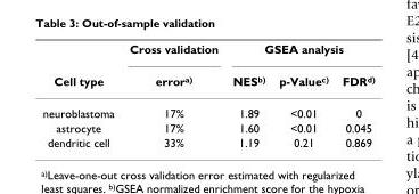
<table><thead><tr><td rowspan="2">Cell type</td><td rowspan="2">Cross validation error<sup>a)</sup></td><td colspan="3">GSEA analysis</td></tr><tr><td>NES<sup>b)</sup></td><td>p-Value<sup>c)</sup></td><td>FDR<sup>d)</sup></td></tr></thead><tbody><tr><td>neuroblastoma</td><td>17%</td><td>1.89</td><td>&lt;0.01</td><td>0</td></tr><tr><td>astrocyte</td><td>17%</td><td>1.60</td><td>&lt;0.01</td><td>0.045</td></tr><tr><td>dendritic cell</td><td>33%</td><td>1.19</td><td>0.21</td><td>0.869</td></tr></tbody></table>